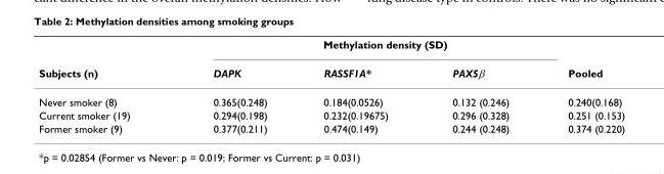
<table><thead><tr><td rowspan="2">Subjects (n)</td><td colspan="3">Methylation density (SD)</td><td rowspan="2">Pooled</td></tr><tr><td>DAPK</td><td>RASSF1A*</td><td>PAX5β</td></tr></thead><tbody><tr><td>Never smoker (8)</td><td>0.365(0.248)</td><td>0.184(0.0526)</td><td>0.132 (0.246)</td><td>0.240(0.168)</td></tr><tr><td>Current smoker (19)</td><td>0.294(0.198)</td><td>0.232(0.19675)</td><td>0.296 (0.328)</td><td>0.251 (0.153)</td></tr><tr><td>Former smoker (9)</td><td>0.377(0.211)</td><td>0.474(0.149)</td><td>0.244 (0.248)</td><td>0.374 (0.220)</td></tr></tbody></table>